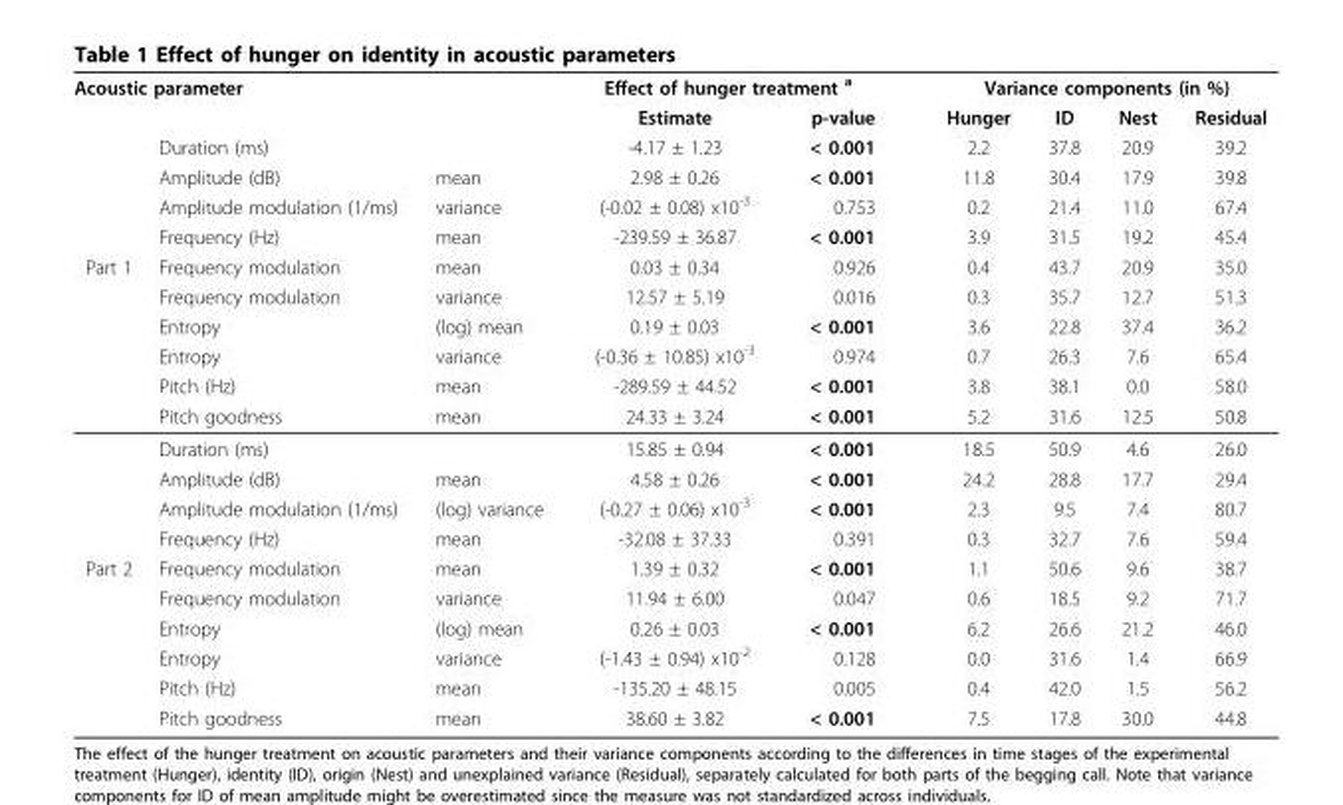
<table><thead><tr><td colspan="3">Acoustic parameter</td><td colspan="2">Effect of hunger treatment <sup>a</sup></td><td colspan="4">Variance components (in %)</td></tr><tr><td rowspan="11">Part 1</td><td rowspan="11">Duration (ms) Amplitude (dB) Amplitude modulation (1/ms) Frequency (Hz) Frequency modulation Frequency modulation Entropy Entropy Pitch (Hz) Pitch goodness</td><td rowspan="11">mean variance mean mean variance (log) mean variance mean mean</td><td rowspan="11">Estimate -4.17 ± 1.23 2.98 ± 0.26 (-0.02 ± 0.08) x10-3 -239.59 ± 36.87 0.03 ± 0.34 12.57 ± 5.19 0.19 ± 0.03 (-0.36 ± 10.85) x10-3 -289.59 ± 44.52 24.33 ± 3.24</td><td rowspan="11">p-value &lt; 0.001 &lt; 0.001 0.753 &lt; 0.001 0.926 0.016 &lt; 0.001 0.974 &lt; 0.001 &lt; 0.001</td><td rowspan="11">Hunger 2.2 11.8 0.2 3.9 0.4 0.3 3.6 0.7 3.8 5.2</td><td rowspan="11">ID 37.8 30.4 21.4 31.5 43.7 35.7 22.8 26.3 38.1 31.6</td><td rowspan="11">Nest 20.9 17.9 11.0 19.2 20.9 12.7 37.4 7.6 0.0 12.5</td><td rowspan="11">Residual 39.2 39.8 67.4 45.4 35.0 51.3 36.2 65.4 58.0 50.8</td></tr><tr></tr><tr></tr><tr></tr><tr></tr><tr></tr><tr></tr><tr></tr><tr></tr><tr></tr><tr></tr></thead><tbody><tr><td></td><td>Duration (ms)</td><td></td><td>15.85 ± 0.94</td><td>&lt; 0.001</td><td>18.5</td><td>50.9</td><td>4.6</td><td>26.0</td></tr><tr><td></td><td>Amplitude (dB)</td><td>mean</td><td>4.58 ± 0.26</td><td>&lt; 0.001</td><td>24.2</td><td>28.8</td><td>17.7</td><td>29.4</td></tr><tr><td></td><td>Amplitude modulation (1/ms)</td><td>(log) variance</td><td>(-0.27 ± 0.06) x10<sup>-3</sup></td><td>&lt; 0.001</td><td>2.3</td><td>9.5</td><td>7.4</td><td>80.7</td></tr><tr><td></td><td>Frequency (Hz)</td><td>mean</td><td>-32.08 ± 37.33</td><td>0.391</td><td>0.3</td><td>32.7</td><td>7.6</td><td>59.4</td></tr><tr><td rowspan="6">Part 2</td><td>Frequency modulation</td><td>mean</td><td>1.39 ± 0.32</td><td>&lt; 0.001</td><td>1.1</td><td>50.6</td><td>9.6</td><td>38.7</td></tr><tr><td>Frequency modulation</td><td>variance</td><td>11.94 ± 6.00</td><td>0.047</td><td>0.6</td><td>18.5</td><td>9.2</td><td>71.7</td></tr><tr><td>Entropy</td><td>(log) mean</td><td>0.26 ± 0.03</td><td>&lt; 0.001</td><td>6.2</td><td>26.6</td><td>21.2</td><td>46.0</td></tr><tr><td>Entropy</td><td>variance</td><td>(-1.43 ± 0.94) x10<sup>-2</sup></td><td>0.128</td><td>0.0</td><td>31.6</td><td>1.4</td><td>66.9</td></tr><tr><td>Pitch (Hz)</td><td>mean</td><td>-135.20 ± 48.15</td><td>0.005</td><td>0.4</td><td>42.0</td><td>1.5</td><td>56.2</td></tr><tr><td>Pitch goodness</td><td>mean</td><td>38.60 ± 3.82</td><td>&lt; 0.001</td><td>7.5</td><td>17.8</td><td>30.0</td><td>44.8</td></tr></tbody></table>